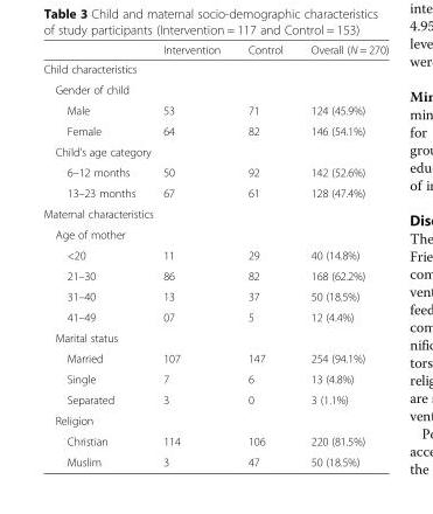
<table><thead><tr><td></td><td>Intervention</td><td>Control</td><td>Overall (N = 270)</td></tr></thead><tbody><tr><td colspan="4">Child characteristics</td></tr><tr><td colspan="4">Gender of child</td></tr><tr><td>Male</td><td>53</td><td>71</td><td>124 (45.9%)</td></tr><tr><td>Female</td><td>64</td><td>82</td><td>146 (54.1%)</td></tr><tr><td colspan="4">Child’s age category</td></tr><tr><td>6–12 months</td><td>50</td><td>92</td><td>142 (52.6%)</td></tr><tr><td>13–23 months</td><td>67</td><td>61</td><td>128 (47.4%)</td></tr><tr><td colspan="4">Maternal characteristics</td></tr><tr><td colspan="4">Age of mother</td></tr><tr><td>&lt;20</td><td>11</td><td>29</td><td>40 (14.8%)</td></tr><tr><td>21–30</td><td>86</td><td>82</td><td>168 (62.2%)</td></tr><tr><td>31–40</td><td>13</td><td>37</td><td>50 (18.5%)</td></tr><tr><td>41–49</td><td>07</td><td>5</td><td>12 (4.4%)</td></tr><tr><td colspan="4">Marital status</td></tr><tr><td>Married</td><td>107</td><td>147</td><td>254 (94.1%)</td></tr><tr><td>Single</td><td>7</td><td>6</td><td>13 (4.8%)</td></tr><tr><td>Separated</td><td>3</td><td>0</td><td>3 (1.1%)</td></tr><tr><td colspan="4">Religion</td></tr><tr><td>Christian</td><td>114</td><td>106</td><td>220 (81.5%)</td></tr><tr><td>Muslim</td><td>3</td><td>47</td><td>50 (18.5%)</td></tr></tbody></table>